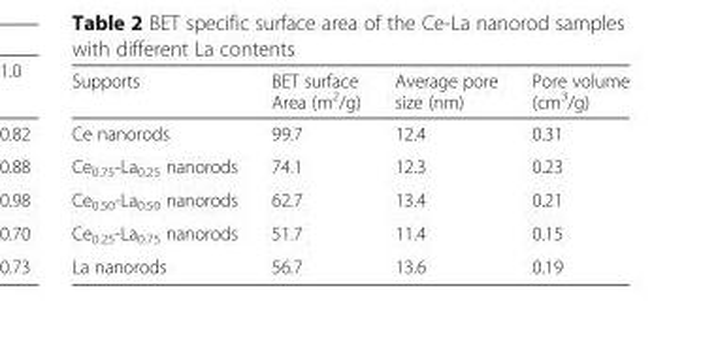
<table><thead><tr><td>Supports</td><td>BET surface Area (m<sup>2</sup>/g)</td><td>Average pore size (nm)</td><td>Pore volume (cm<sup>3</sup>/g)</td></tr></thead><tbody><tr><td>Ce nanorods</td><td>99.7</td><td>12.4</td><td>0.31</td></tr><tr><td>Ce<sub>0.75</sub>-La<sub>0.25</sub> nanorods</td><td>74.1</td><td>12.3</td><td>0.23</td></tr><tr><td>Ce<sub>0.50</sub>-La<sub>0.50</sub> nanorods</td><td>62.7</td><td>13.4</td><td>0.21</td></tr><tr><td>Ce<sub>0.25</sub>-La<sub>0.75</sub> nanorods</td><td>51.7</td><td>11.4</td><td>0.15</td></tr><tr><td>La nanorods</td><td>56.7</td><td>13.6</td><td>0.19</td></tr></tbody></table>